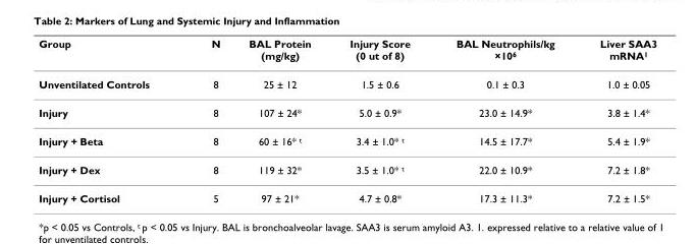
<table><thead><tr><td>Group</td><td>N</td><td>BAL Protein (mg/kg)</td><td>Injury Score (0 ut of 8)</td><td>BAL Neutrophils/kg ×10<sup>6</sup></td><td>Liver SAA3 mRNA<sup>1</sup></td></tr></thead><tbody><tr><td>Unventilated Controls</td><td>8</td><td>25 ± 12</td><td>1.5 ± 0.6</td><td>0.1 ± 0.3</td><td>1.0 ± 0.05</td></tr><tr><td>Injury</td><td>8</td><td>107 ± 24*</td><td>5.0 ± 0.9*</td><td>23.0 ± 14.9*</td><td>3.8 ± 1.4*</td></tr><tr><td>Injury + Beta</td><td>8</td><td>60 ± 16* <sup>t</sup></td><td>3.4 ± 1.0* <sup>t</sup></td><td>14.5 ± 17.7*</td><td>5.4 ± 1.9*</td></tr><tr><td>Injury + Dex</td><td>8</td><td>119 ± 32*</td><td>3.5 ± 1.0* <sup>t</sup></td><td>22.0 ± 10.9*</td><td>7.2 ± 1.8*</td></tr><tr><td>Injury + Cortisol</td><td>5</td><td>97 ± 21*</td><td>4.7 ± 0.8*</td><td>17.3 ± 11.3*</td><td>7.2 ± 1.5*</td></tr></tbody></table>